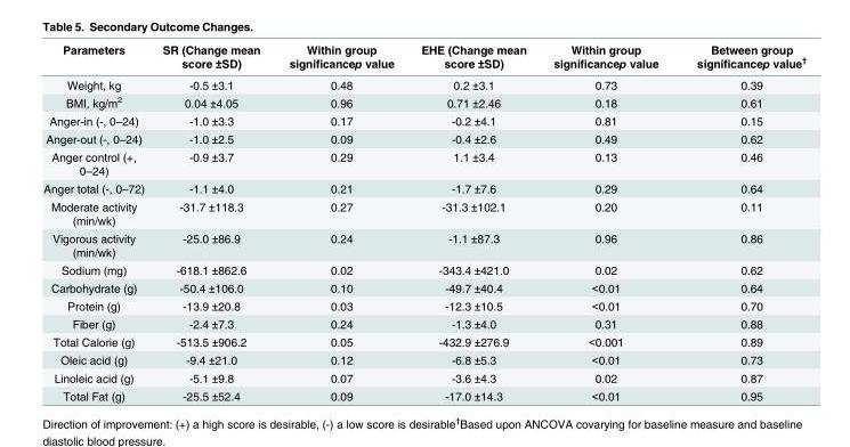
<table><thead><tr><td>Parameters</td><td>SR (Change mean score ±SD)</td><td>Within group significancep value</td><td>EHE (Change mean score ±SD)</td><td>Within group significancep value</td><td>Between group significancep value<sup>†</sup></td></tr></thead><tbody><tr><td>Weight, kg</td><td>-0.5 ±3.1</td><td>0.48</td><td>0.2 ±3.1</td><td>0.73</td><td>0.39</td></tr><tr><td>BMI, kg/m<sup>2</sup></td><td>0.04 ±4.05</td><td>0.96</td><td>0.71 ±2.46</td><td>0.18</td><td>0.61</td></tr><tr><td>Anger-in (-, 0–24)</td><td>-1.0 ±3.3</td><td>0.17</td><td>-0.2 ±4.1</td><td>0.81</td><td>0.15</td></tr><tr><td>Anger-out (-, 0–24)</td><td>-1.0 ±2.5</td><td>0.09</td><td>-0.4 ±2.6</td><td>0.49</td><td>0.62</td></tr><tr><td>Anger control (+, 0–24)</td><td>-0.9 ±3.7</td><td>0.29</td><td>1.1 ±3.4</td><td>0.13</td><td>0.46</td></tr><tr><td>Anger total (-, 0–72)</td><td>-1.1 ±4.0</td><td>0.21</td><td>-1.7 ±7.6</td><td>0.29</td><td>0.64</td></tr><tr><td>Moderate activity (min/wk)</td><td>-31.7 ±118.3</td><td>0.27</td><td>-31.3 ±102.1</td><td>0.20</td><td>0.11</td></tr><tr><td>Vigorous activity (min/wk)</td><td>-25.0 ±86.9</td><td>0.24</td><td>-1.1 ±87.3</td><td>0.96</td><td>0.86</td></tr><tr><td>Sodium (mg)</td><td>-618.1 ±862.6</td><td>0.02</td><td>-343.4 ±421.0</td><td>0.02</td><td>0.62</td></tr><tr><td>Carbohydrate (g)</td><td>-50.4 ±106.0</td><td>0.10</td><td>-49.7 ±40.4</td><td>&lt;0.01</td><td>0.64</td></tr><tr><td>Protein (g)</td><td>-13.9 ±20.8</td><td>0.03</td><td>-12.3 ±10.5</td><td>&lt;0.01</td><td>0.70</td></tr><tr><td>Fiber (g)</td><td>-2.4 ±7.3</td><td>0.24</td><td>-1.3 ±4.0</td><td>0.31</td><td>0.88</td></tr><tr><td>Total Calorie (g)</td><td>-513.5 ±906.2</td><td>0.05</td><td>-432.9 ±276.9</td><td>&lt;0.001</td><td>0.89</td></tr><tr><td>Oleic acid (g)</td><td>-9.4 ±21.0</td><td>0.12</td><td>-6.8 ±5.3</td><td>&lt;0.01</td><td>0.73</td></tr><tr><td>Linoleic acid (g)</td><td>-5.1 ±9.8</td><td>0.07</td><td>-3.6 ±4.3</td><td>0.02</td><td>0.87</td></tr><tr><td>Total Fat (g)</td><td>-25.5 ±52.4</td><td>0.09</td><td>-17.0 ±14.3</td><td>&lt;0.01</td><td>0.95</td></tr></tbody></table>